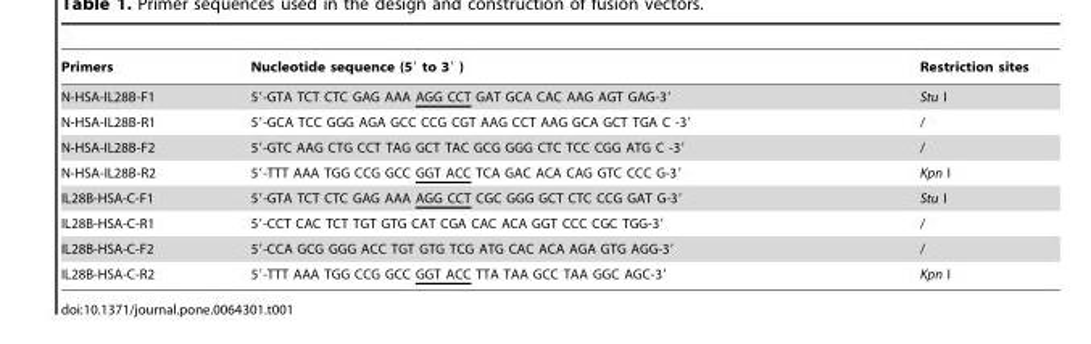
<table><thead><tr><td>Primers</td><td>Nucleotide sequence (5′ to 3′ )</td><td>Restriction sites</td></tr></thead><tbody><tr><td>N-HSA-IL28B-F1</td><td>5′-GTA TCT CTC GAG AAA AGG CCT GAT GCA CAC AAG AGT GAG-3′</td><td>Stu I</td></tr><tr><td>N-HSA-IL28B-R1</td><td>5′-GCA TCC GGG AGA GCC CCG CGT AAG CCT AAG GCA GCT TGA C -3′</td><td>/</td></tr><tr><td>N-HSA-IL28B-F2</td><td>5′-GTC AAG CTG CCT TAG GCT TAC GCG GGG CTC TCC CGG ATG C -3′</td><td>/</td></tr><tr><td>N-HSA-IL28B-R2</td><td>5′-TTT AAA TGG CCG GCC GGT ACC TCA GAC ACA CAG GTC CCC G-3′</td><td>Kpn I</td></tr><tr><td>IL28B-HSA-C-F1</td><td>5′-GTA TCT CTC GAG AAA AGG CCT CGC GGG GCT CTC CCG GAT G-3′</td><td>Stu I</td></tr><tr><td>IL28B-HSA-C-R1</td><td>5′-CCT CAC TCT TGT GTG CAT CGA CAC ACA GGT CCC CGC TGG-3′</td><td>/</td></tr><tr><td>IL28B-HSA-C-F2</td><td>5′-CCA GCG GGG ACC TGT GTG TCG ATG CAC ACA AGA GTG AGG-3′</td><td>/</td></tr><tr><td>IL28B-HSA-C-R2</td><td>5′-TTT AAA TGG CCG GCC GGT ACC TTA TAA GCC TAA GGC AGC-3′</td><td>Kpn I</td></tr></tbody></table>